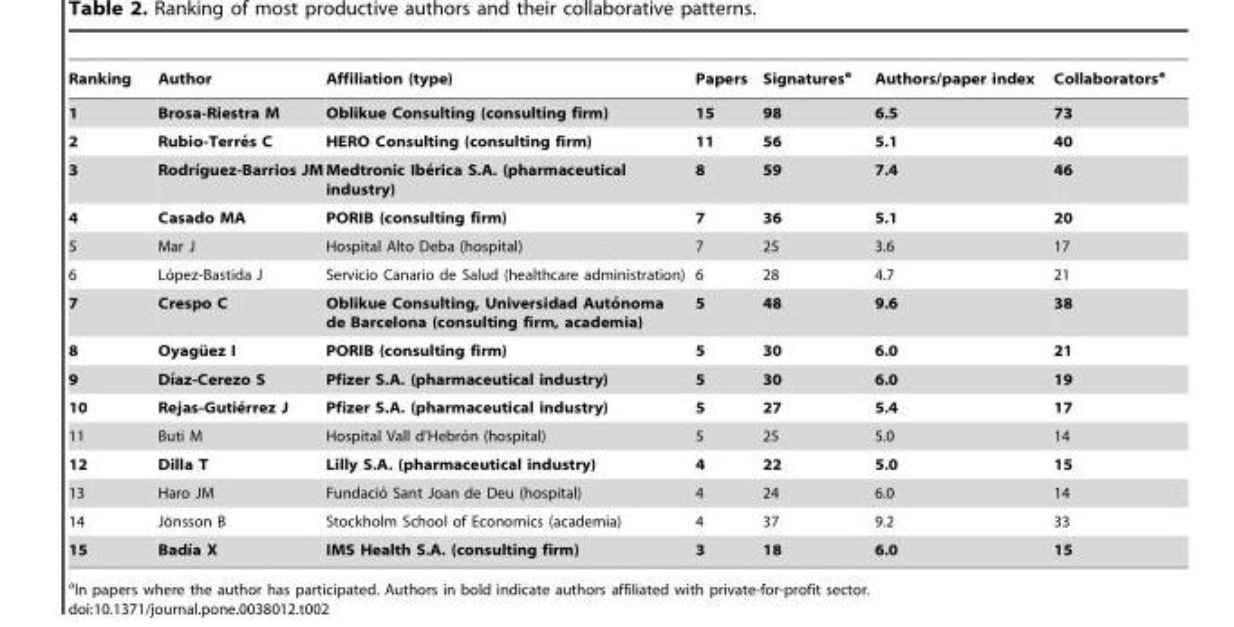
<table><thead><tr><td>Ranking</td><td>Author</td><td>Affiliation (type)</td><td>Papers</td><td>Signatures<sup>a</sup></td><td>Authors/paper index</td><td>Collaborators<sup>a</sup></td></tr></thead><tbody><tr><td>1</td><td>Brosa-Riestra M</td><td>Oblikue Consulting (consulting firm)</td><td>15</td><td>98</td><td>6.5</td><td>73</td></tr><tr><td>2</td><td>Rubio-Terre´s C</td><td>HERO Consulting (consulting firm)</td><td>11</td><td>56</td><td>5.1</td><td>40</td></tr><tr><td>3</td><td>Rodrı´guez-Barrios JM</td><td>Medtronic Ibe´rica S.A. (pharmaceutical industry)</td><td>8</td><td>59</td><td>7.4</td><td>46</td></tr><tr><td>4</td><td>Casado MA</td><td>PORIB (consulting firm)</td><td>7</td><td>36</td><td>5.1</td><td>20</td></tr><tr><td>5</td><td>Mar J</td><td>Hospital Alto Deba (hospital)</td><td>7</td><td>25</td><td>3.6</td><td>17</td></tr><tr><td>6</td><td>Lo´pez-Bastida J</td><td>Servicio Canario de Salud (healthcare administration)</td><td>6</td><td>28</td><td>4.7</td><td>21</td></tr><tr><td>7</td><td>Crespo C</td><td>Oblikue Consulting, Universidad Auto´ noma de Barcelona (consulting firm, academia)</td><td>5</td><td>48</td><td>9.6</td><td>38</td></tr><tr><td>8</td><td>Oyagu¨ ez I</td><td>PORIB (consulting firm)</td><td>5</td><td>30</td><td>6.0</td><td>21</td></tr><tr><td>9</td><td>Dı´az-Cerezo S</td><td>Pfizer S.A. (pharmaceutical industry)</td><td>5</td><td>30</td><td>6.0</td><td>19</td></tr><tr><td>10</td><td>Rejas-Gutie´rrez J</td><td>Pfizer S.A. (pharmaceutical industry)</td><td>5</td><td>27</td><td>5.4</td><td>17</td></tr><tr><td>11</td><td>Buti M</td><td>Hospital Vall d’Hebro´n (hospital)</td><td>5</td><td>25</td><td>5.0</td><td>14</td></tr><tr><td>12</td><td>Dilla T</td><td>Lilly S.A. (pharmaceutical industry)</td><td>4</td><td>22</td><td>5.0</td><td>15</td></tr><tr><td>13</td><td>Haro JM</td><td>Fundacio´ Sant Joan de Deu (hospital)</td><td>4</td><td>24</td><td>6.0</td><td>14</td></tr><tr><td>14</td><td>Jo¨nsson B</td><td>Stockholm School of Economics (academia)</td><td>4</td><td>37</td><td>9.2</td><td>33</td></tr><tr><td>15</td><td>Badı´a X</td><td>IMS Health S.A. (consulting firm)</td><td>3</td><td>18</td><td>6.0</td><td>15</td></tr></tbody></table>